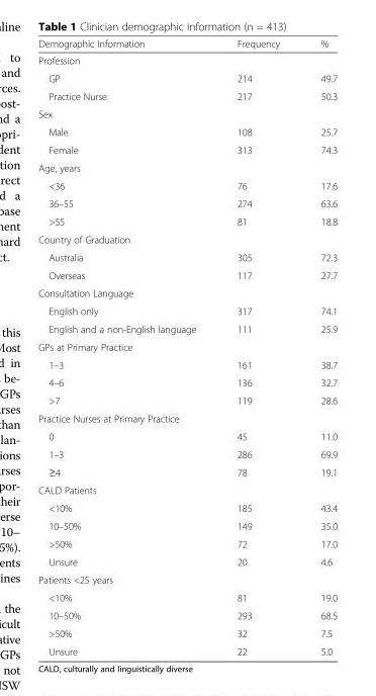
<table><thead><tr><td>Demographic Information</td><td>Frequency</td><td>%</td></tr></thead><tbody><tr><td colspan="3">Profession</td></tr><tr><td>GP</td><td>214</td><td>49.7</td></tr><tr><td>Practice Nurse</td><td>217</td><td>50.3</td></tr><tr><td colspan="3">Sex</td></tr><tr><td>Male</td><td>108</td><td>25.7</td></tr><tr><td>Female</td><td>313</td><td>74.3</td></tr><tr><td colspan="3">Age, years</td></tr><tr><td>&lt;36</td><td>76</td><td>17.6</td></tr><tr><td>36–55</td><td>274</td><td>63.6</td></tr><tr><td>&gt;55</td><td>81</td><td>18.8</td></tr><tr><td colspan="3">Country of Graduation</td></tr><tr><td>Australia</td><td>305</td><td>72.3</td></tr><tr><td>Overseas</td><td>117</td><td>27.7</td></tr><tr><td colspan="3">Consultation Language</td></tr><tr><td>English only</td><td>317</td><td>74.1</td></tr><tr><td>English and a non-English language</td><td>111</td><td>25.9</td></tr><tr><td colspan="3">GPs at Primary Practice</td></tr><tr><td>1–3</td><td>161</td><td>38.7</td></tr><tr><td>4–6</td><td>136</td><td>32.7</td></tr><tr><td>&gt;7</td><td>119</td><td>28.6</td></tr><tr><td colspan="3">Practice Nurses at Primary Practice</td></tr><tr><td>0</td><td>45</td><td>11.0</td></tr><tr><td>1–3</td><td>286</td><td>69.9</td></tr><tr><td>≥4</td><td>78</td><td>19.1</td></tr><tr><td colspan="3">CALD Patients</td></tr><tr><td>&lt;10%</td><td>185</td><td>43.4</td></tr><tr><td>10–50%</td><td>149</td><td>35.0</td></tr><tr><td>&gt;50%</td><td>72</td><td>17.0</td></tr><tr><td>Unsure</td><td>20</td><td>4.6</td></tr><tr><td colspan="3">Patients &lt;25 years</td></tr><tr><td>&lt;10%</td><td>81</td><td>19.0</td></tr><tr><td>10–50%</td><td>293</td><td>68.5</td></tr><tr><td>&gt;50%</td><td>32</td><td>7.5</td></tr><tr><td>Unsure</td><td>22</td><td>5.0</td></tr></tbody></table>